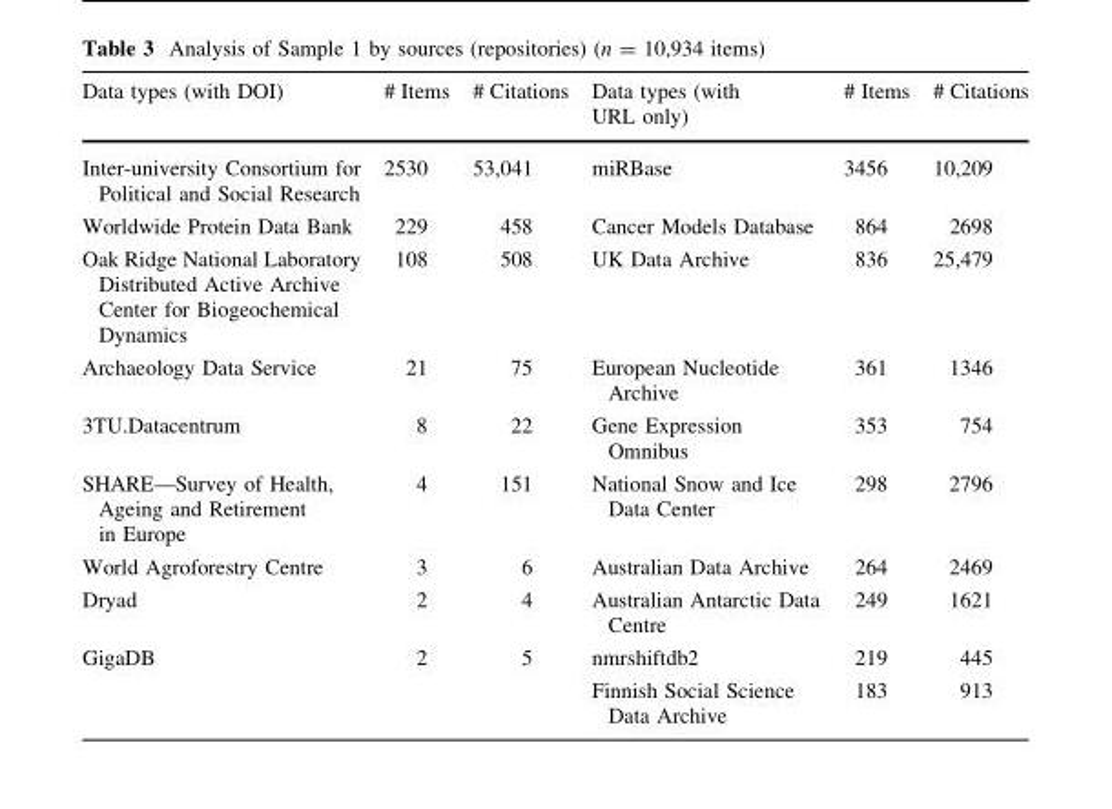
<table><thead><tr><td>Data types (with DOI)</td><td># Items</td><td># Citations</td><td>Data types (with URL only)</td><td># Items</td><td># Citations</td></tr></thead><tbody><tr><td>Inter-university Consortium for Political and Social Research</td><td>2530</td><td>53,041</td><td>miRBase</td><td>3456</td><td>10,209</td></tr><tr><td>Worldwide Protein Data Bank</td><td>229</td><td>458</td><td>Cancer Models Database</td><td>864</td><td>2698</td></tr><tr><td>Oak Ridge National Laboratory Distributed Active Archive Center for Biogeochemical Dynamics</td><td>108</td><td>508</td><td>UK Data Archive</td><td>836</td><td>25,479</td></tr><tr><td>Archaeology Data Service</td><td>21</td><td>75</td><td>European Nucleotide Archive</td><td>361</td><td>1346</td></tr><tr><td>3TU.Datacentrum</td><td>8</td><td>22</td><td>Gene Expression Omnibus</td><td>353</td><td>754</td></tr><tr><td>SHARE—Survey of Health, Ageing and Retirement in Europe</td><td>4</td><td>151</td><td>National Snow and Ice Data Center</td><td>298</td><td>2796</td></tr><tr><td>World Agroforestry Centre</td><td>3</td><td>6</td><td>Australian Data Archive</td><td>264</td><td>2469</td></tr><tr><td>Dryad</td><td>2</td><td>4</td><td>Australian Antarctic Data Centre</td><td>249</td><td>1621</td></tr><tr><td rowspan="2">GigaDB</td><td>2</td><td>5</td><td>nmrshiftdb2</td><td>219</td><td>445</td></tr><tr><td></td><td></td><td>Finnish Social Science Data Archive</td><td>183</td><td>913</td></tr></tbody></table>